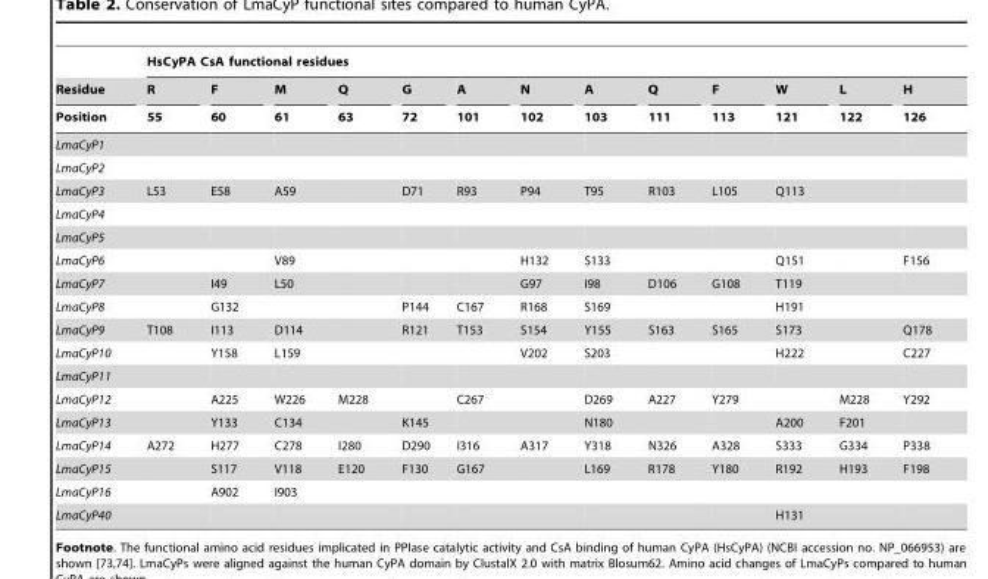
<table><thead><tr><td rowspan="3">Residue Position</td><td colspan="13">HsCyPA CsA functional residues</td></tr><tr><td rowspan="2">R 55</td><td rowspan="2">F 60</td><td rowspan="2">M 61</td><td rowspan="2">Q 63</td><td rowspan="2">G 72</td><td rowspan="2">A 101</td><td rowspan="2">N 102</td><td rowspan="2">A 103</td><td rowspan="2">Q 111</td><td rowspan="2">F 113</td><td rowspan="2">W 121</td><td rowspan="2">L 122</td><td rowspan="2">H 126</td></tr><tr></tr></thead><tbody><tr><td colspan="14">LmaCyP1</td></tr><tr><td colspan="14">LmaCyP2</td></tr><tr><td>LmaCyP3</td><td>L53</td><td>E58</td><td>A59</td><td></td><td>D71</td><td>R93</td><td>P94</td><td>T95</td><td>R103</td><td>L105</td><td>Q113</td><td></td><td></td></tr><tr><td colspan="14">LmaCyP4</td></tr><tr><td colspan="14">LmaCyP5</td></tr><tr><td>LmaCyP6</td><td></td><td></td><td>V89</td><td></td><td></td><td></td><td>H132</td><td>S133</td><td></td><td></td><td>Q151</td><td></td><td>F156</td></tr><tr><td>LmaCyP7</td><td></td><td>I49</td><td>L50</td><td></td><td></td><td></td><td>G97</td><td>I98</td><td>D106</td><td>G108</td><td>T119</td><td></td><td></td></tr><tr><td>LmaCyP8</td><td></td><td>G132</td><td></td><td></td><td>P144</td><td>C167</td><td>R168</td><td>S169</td><td></td><td></td><td>H191</td><td></td><td></td></tr><tr><td>LmaCyP9</td><td>T108</td><td>I113</td><td>D114</td><td></td><td>R121</td><td>T153</td><td>S154</td><td>Y155</td><td>S163</td><td>S165</td><td>S173</td><td></td><td>Q178</td></tr><tr><td>LmaCyP10</td><td></td><td>Y158</td><td>L159</td><td></td><td></td><td></td><td>V202</td><td>S203</td><td></td><td></td><td>H222</td><td></td><td>C227</td></tr><tr><td colspan="14">LmaCyP11</td></tr><tr><td>LmaCyP12</td><td></td><td>A225</td><td>W226</td><td>M228</td><td></td><td>C267</td><td></td><td>D269</td><td>A227</td><td>Y279</td><td></td><td>M228</td><td>Y292</td></tr><tr><td>LmaCyP13</td><td></td><td>Y133</td><td>C134</td><td></td><td>K145</td><td></td><td></td><td>N180</td><td></td><td></td><td>A200</td><td>F201</td><td></td></tr><tr><td>LmaCyP14</td><td>A272</td><td>H277</td><td>C278</td><td>I280</td><td>D290</td><td>I316</td><td>A317</td><td>Y318</td><td>N326</td><td>A328</td><td>S333</td><td>G334</td><td>P338</td></tr><tr><td>LmaCyP15</td><td></td><td>S117</td><td>V118</td><td>E120</td><td>F130</td><td>G167</td><td></td><td>L169</td><td>R178</td><td>Y180</td><td>R192</td><td>H193</td><td>F198</td></tr><tr><td>LmaCyP16</td><td></td><td>A902</td><td>I903</td><td></td><td></td><td></td><td></td><td></td><td></td><td></td><td></td><td></td><td></td></tr><tr><td>LmaCyP40</td><td></td><td></td><td></td><td></td><td></td><td></td><td></td><td></td><td></td><td></td><td>H131</td><td></td><td></td></tr></tbody></table>